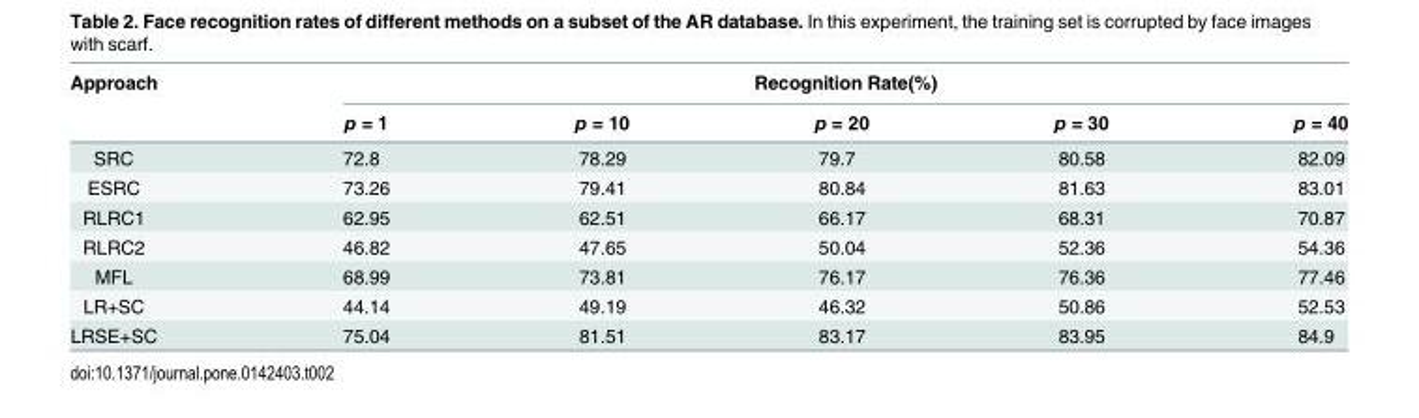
<table><thead><tr><td rowspan="2">Approach</td><td colspan="5">Recognition Rate(%)</td></tr><tr><td>p = 1</td><td>p = 10</td><td>p = 20</td><td>p = 30</td><td>p = 40</td></tr></thead><tbody><tr><td>SRC</td><td>72.8</td><td>78.29</td><td>79.7</td><td>80.58</td><td>82.09</td></tr><tr><td>ESRC</td><td>73.26</td><td>79.41</td><td>80.84</td><td>81.63</td><td>83.01</td></tr><tr><td>RLRC1</td><td>62.95</td><td>62.51</td><td>66.17</td><td>68.31</td><td>70.87</td></tr><tr><td>RLRC2</td><td>46.82</td><td>47.65</td><td>50.04</td><td>52.36</td><td>54.36</td></tr><tr><td>MFL</td><td>68.99</td><td>73.81</td><td>76.17</td><td>76.36</td><td>77.46</td></tr><tr><td>LR+SC</td><td>44.14</td><td>49.19</td><td>46.32</td><td>50.86</td><td>52.53</td></tr><tr><td>LRSE+SC</td><td>75.04</td><td>81.51</td><td>83.17</td><td>83.95</td><td>84.9</td></tr></tbody></table>